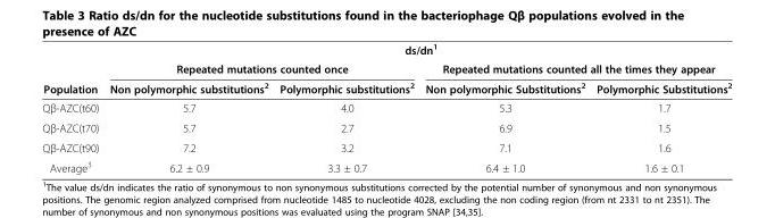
<table><thead><tr><td rowspan="3">Population</td><td colspan="4">ds/dn<sup>1</sup></td></tr><tr><td colspan="2">Repeated mutations counted once</td><td colspan="2">Repeated mutations counted all the times they appear</td></tr><tr><td>Non polymorphic substitutions2</td><td>Polymorphic substitutions<sup>2</sup></td><td>Non polymorphic Substitutions<sup>2</sup></td><td>Polymorphic Substitutions<sup>2</sup></td></tr></thead><tbody><tr><td>Qβ-AZC(t60)</td><td>5.7</td><td>4.0</td><td>5.3</td><td>1.7</td></tr><tr><td>Qβ-AZC(t70)</td><td>5.7</td><td>2.7</td><td>6.9</td><td>1.5</td></tr><tr><td>Qβ-AZC(t90)</td><td>7.2</td><td>3.2</td><td>7.1</td><td>1.6</td></tr><tr><td>Average<sup>3</sup></td><td>6.2 ± 0.9</td><td>3.3 ± 0.7</td><td>6.4 ± 1.0</td><td>1.6 ± 0.1</td></tr></tbody></table>